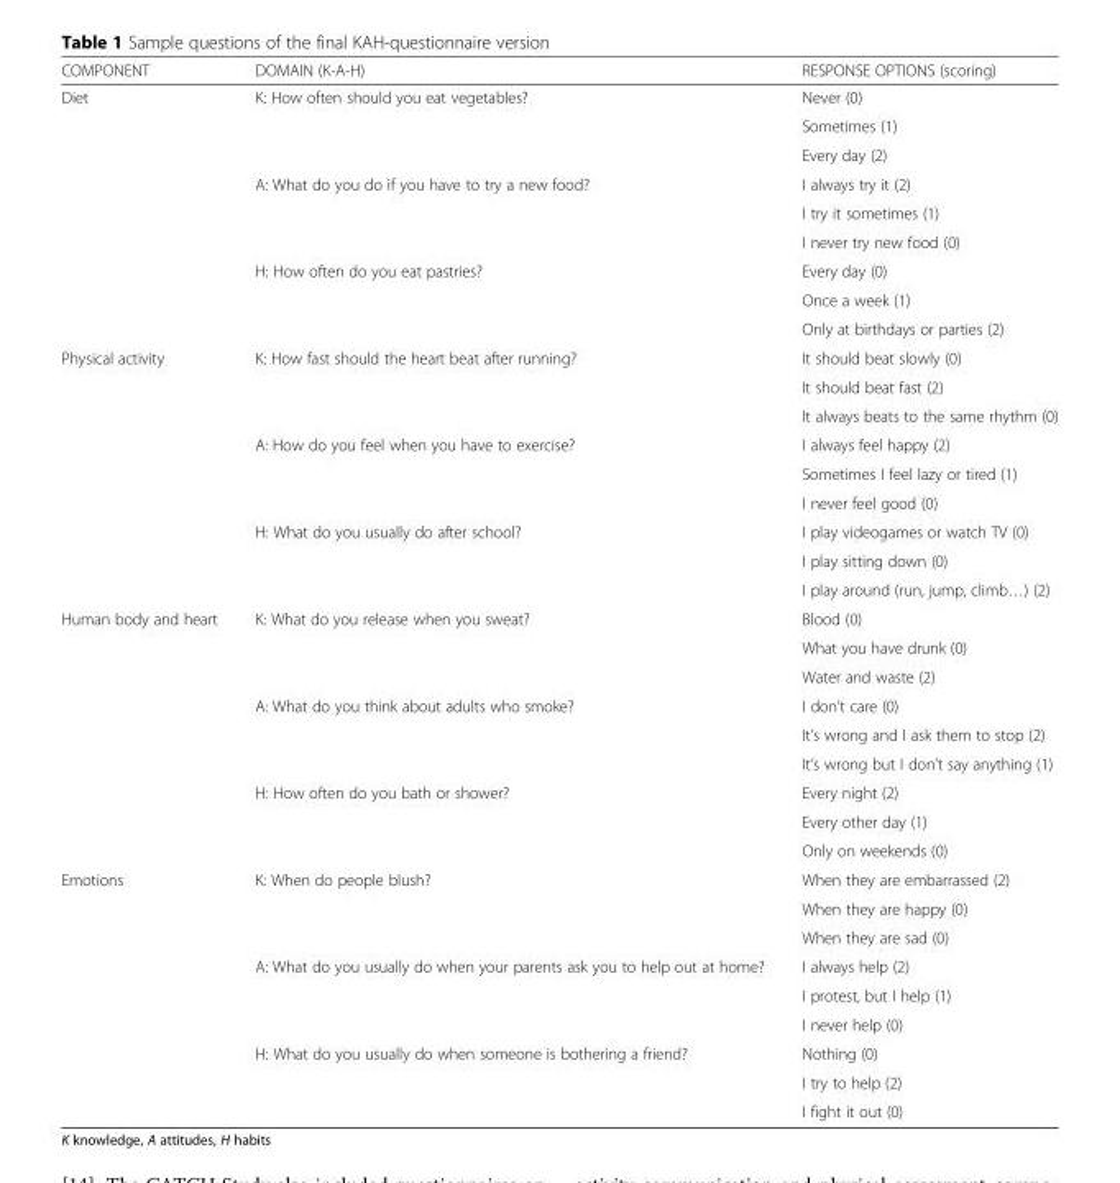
<table><thead><tr><td>COMPONENT</td><td>DOMAIN (K-A-H)</td><td>RESPONSE OPTIONS (scoring)</td></tr></thead><tbody><tr><td rowspan="9">Diet</td><td rowspan="3">K: How often should you eat vegetables?</td><td>Never (0)</td></tr><tr><td>Sometimes (1)</td></tr><tr><td>Every day (2)</td></tr><tr><td rowspan="3">A: What do you do if you have to try a new food?</td><td>I always try it (2)</td></tr><tr><td>I try it sometimes (1)</td></tr><tr><td>I never try new food (0)</td></tr><tr><td rowspan="3">H: How often do you eat pastries?</td><td>Every day (0)</td></tr><tr><td>Once a week (1)</td></tr><tr><td>Only at birthdays or parties (2)</td></tr><tr><td rowspan="9">Physical activity</td><td rowspan="3">K: How fast should the heart beat after running?</td><td>It should beat slowly (0)</td></tr><tr><td>It should beat fast (2)</td></tr><tr><td>It always beats to the same rhythm (0)</td></tr><tr><td rowspan="3">A: How do you feel when you have to exercise?</td><td>I always feel happy (2)</td></tr><tr><td>Sometimes I feel lazy or tired (1)</td></tr><tr><td>I never feel good (0)</td></tr><tr><td rowspan="3">H: What do you usually do after school?</td><td>I play videogames or watch TV (0)</td></tr><tr><td>I play sitting down (0)</td></tr><tr><td>I play around (run, jump, climb…) (2)</td></tr><tr><td rowspan="9">Human body and heart</td><td rowspan="3">K: What do you release when you sweat?</td><td>Blood (0)</td></tr><tr><td>What you have drunk (0)</td></tr><tr><td>Water and waste (2)</td></tr><tr><td rowspan="3">A: What do you think about adults who smoke?</td><td>I don’t care (0)</td></tr><tr><td>It’s wrong and I ask them to stop (2)</td></tr><tr><td>It’s wrong but I don’t say anything (1)</td></tr><tr><td rowspan="3">H: How often do you bath or shower?</td><td>Every night (2)</td></tr><tr><td>Every other day (1)</td></tr><tr><td>Only on weekends (0)</td></tr><tr><td rowspan="9">Emotions</td><td rowspan="3">K: When do people blush?</td><td>When they are embarrassed (2)</td></tr><tr><td>When they are happy (0)</td></tr><tr><td>When they are sad (0)</td></tr><tr><td rowspan="3">A: What do you usually do when your parents ask you to help out at home?</td><td>I always help (2)</td></tr><tr><td>I protest, but I help (1)</td></tr><tr><td>I never help (0)</td></tr><tr><td rowspan="3">H: What do you usually do when someone is bothering a friend?</td><td>Nothing (0)</td></tr><tr><td>I try to help (2)</td></tr><tr><td>I fight it out (0)</td></tr></tbody></table>